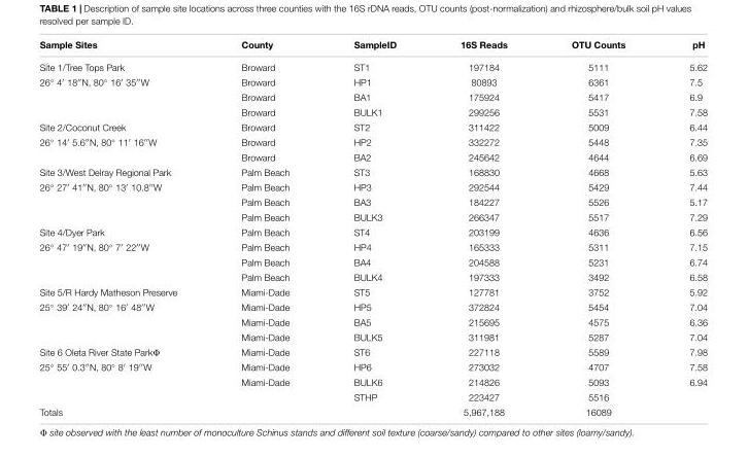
<table><thead><tr><td>Sample Sites</td><td>County</td><td>SampleID</td><td>16S Reads</td><td>OTU Counts</td><td>pH</td></tr></thead><tbody><tr><td>Site 1/Tree Tops Park</td><td>Broward</td><td>ST1</td><td>197184</td><td>5111</td><td>5.62</td></tr><tr><td rowspan="3">26◦ 4′ 18′′N, 80◦ 16′ 35′′W</td><td>Broward</td><td>HP1</td><td>80893</td><td>6361</td><td>7.5</td></tr><tr><td>Broward</td><td>BA1</td><td>175924</td><td>5417</td><td>6.9</td></tr><tr><td>Broward</td><td>BULK1</td><td>299256</td><td>5531</td><td>7.58</td></tr><tr><td>Site 2/Coconut Creek</td><td>Broward</td><td>ST2</td><td>311422</td><td>5009</td><td>6.44</td></tr><tr><td rowspan="2">26◦ 14′ 5.6′′N, 80◦ 11′ 16′′W</td><td>Broward</td><td>HP2</td><td>332272</td><td>5448</td><td>7.35</td></tr><tr><td>Broward</td><td>BA2</td><td>245642</td><td>4644</td><td>6.69</td></tr><tr><td>Site 3/West Delray Regional Park</td><td>Palm Beach</td><td>ST3</td><td>168830</td><td>4668</td><td>5.63</td></tr><tr><td rowspan="3">26◦ 27′ 41′′N, 80◦ 13′ 10.8′′W</td><td>Palm Beach</td><td>HP3</td><td>292544</td><td>5429</td><td>7.44</td></tr><tr><td>Palm Beach</td><td>BA3</td><td>184227</td><td>5526</td><td>5.17</td></tr><tr><td>Palm Beach</td><td>BULK3</td><td>266347</td><td>5517</td><td>7.29</td></tr><tr><td>Site 4/Dyer Park</td><td>Palm Beach</td><td>ST4</td><td>203199</td><td>4636</td><td>6.56</td></tr><tr><td rowspan="3">26◦ 47′ 19′′N, 80◦ 7′ 22′′W</td><td>Palm Beach</td><td>HP4</td><td>165333</td><td>5311</td><td>7.15</td></tr><tr><td>Palm Beach</td><td>BA4</td><td>204588</td><td>5231</td><td>6.74</td></tr><tr><td>Palm Beach</td><td>BULK4</td><td>197333</td><td>3492</td><td>6.58</td></tr><tr><td>Site 5/R Hardy Matheson Preserve</td><td>Miami-Dade</td><td>ST5</td><td>127781</td><td>3752</td><td>5.92</td></tr><tr><td rowspan="3">25◦ 39′ 24′′N, 80◦ 16′ 48′′W</td><td>Miami-Dade</td><td>HP5</td><td>372824</td><td>5454</td><td>7.04</td></tr><tr><td>Miami-Dade</td><td>BA5</td><td>215695</td><td>4575</td><td>6.36</td></tr><tr><td>Miami-Dade</td><td>BULK5</td><td>311981</td><td>5287</td><td>7.04</td></tr><tr><td>Site 6 Oleta River State ParkΦ</td><td>Miami-Dade</td><td>ST6</td><td>227118</td><td>5589</td><td>7.98</td></tr><tr><td rowspan="3">25◦ 55′ 0.3′′N, 80◦ 8′ 19′′W</td><td>Miami-Dade</td><td>HP6</td><td>273032</td><td>4707</td><td>7.58</td></tr><tr><td>Miami-Dade</td><td>BULK6</td><td>214826</td><td>5093</td><td>6.94</td></tr><tr><td></td><td>STHP</td><td>223427</td><td>5516</td><td></td></tr><tr><td>Totals</td><td></td><td></td><td>5,967,188</td><td>16089</td><td></td></tr></tbody></table>